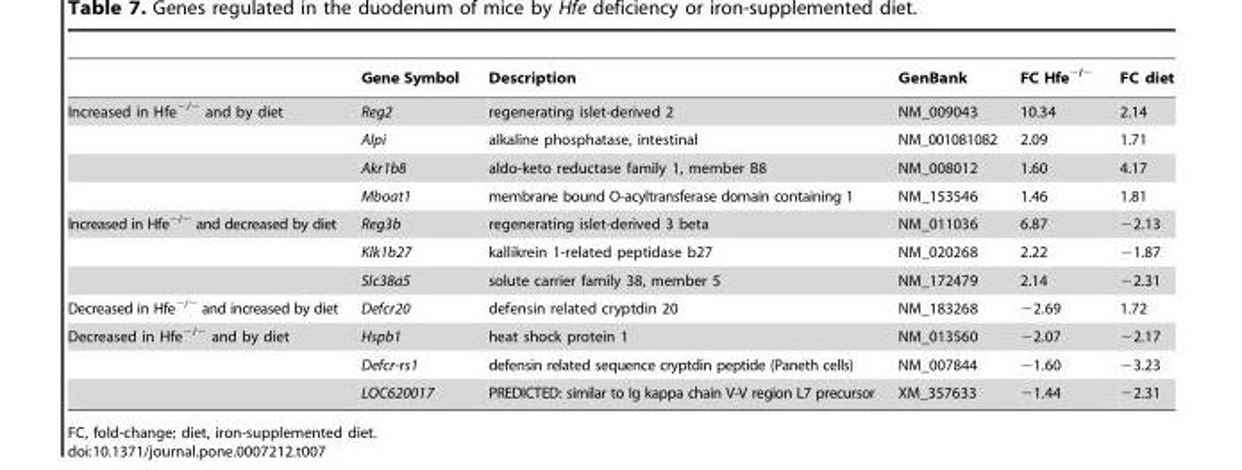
<table><thead><tr><td></td><td>Gene Symbol</td><td>Description</td><td>GenBank</td><td>FC Hfe<sup>−/−</sup></td><td>FC diet</td></tr></thead><tbody><tr><td rowspan="4">Increased in Hfe<sup>−/−</sup> and by diet</td><td>Reg2</td><td>regenerating islet-derived 2</td><td>NM_009043</td><td>10.34</td><td>2.14</td></tr><tr><td>Alpi</td><td>alkaline phosphatase, intestinal</td><td>NM_001081082</td><td>2.09</td><td>1.71</td></tr><tr><td>Akr1b8</td><td>aldo-keto reductase family 1, member B8</td><td>NM_008012</td><td>1.60</td><td>4.17</td></tr><tr><td>Mboat1</td><td>membrane bound O-acyltransferase domain containing 1</td><td>NM_153546</td><td>1.46</td><td>1.81</td></tr><tr><td rowspan="3">Increased in Hfe<sup>−/−</sup> and decreased by diet</td><td>Reg3b</td><td>regenerating islet-derived 3 beta</td><td>NM_011036</td><td>6.87</td><td>−2.13</td></tr><tr><td>Klk1b27</td><td>kallikrein 1-related peptidase b27</td><td>NM_020268</td><td>2.22</td><td>−1.87</td></tr><tr><td>Slc38a5</td><td>solute carrier family 38, member 5</td><td>NM_172479</td><td>2.14</td><td>−2.31</td></tr><tr><td>Decreased in Hfe<sup>−/−</sup> and increased by diet</td><td>Defcr20</td><td>defensin related cryptdin 20</td><td>NM_183268</td><td>−2.69</td><td>1.72</td></tr><tr><td rowspan="3">Decreased in Hfe<sup>−/−</sup> and by diet</td><td>Hspb1</td><td>heat shock protein 1</td><td>NM_013560</td><td>−2.07</td><td>−2.17</td></tr><tr><td>Defcr-rs1</td><td>defensin related sequence cryptdin peptide (Paneth cells)</td><td>NM_007844</td><td>−1.60</td><td>−3.23</td></tr><tr><td>LOC620017</td><td>PREDICTED: similar to Ig kappa chain V-V region L7 precursor</td><td>XM_357633</td><td>−1.44</td><td>−2.31</td></tr></tbody></table>